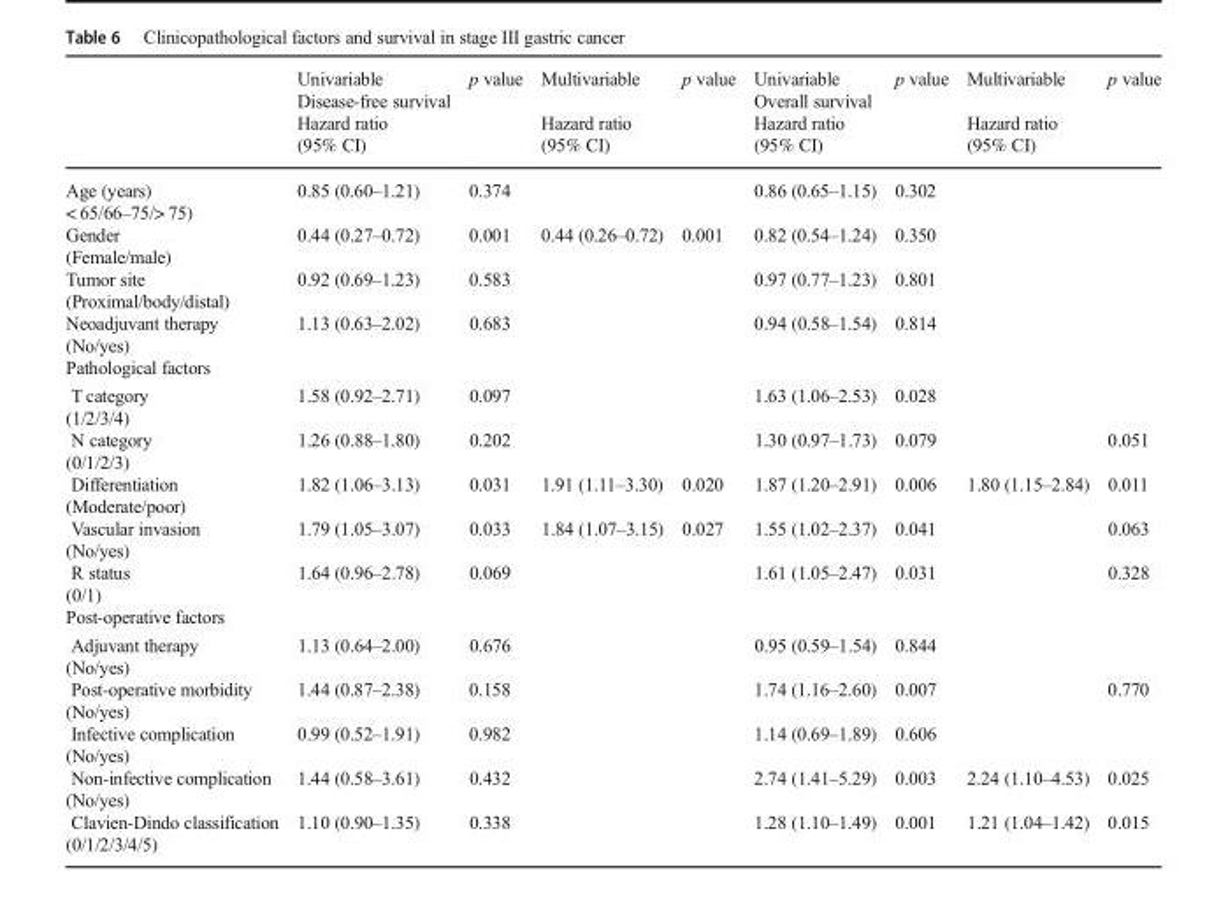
<table><thead><tr><td rowspan="3"></td><td rowspan="3">Univariable Disease-free survival Hazard ratio (95% CI)</td><td rowspan="3">p value</td><td rowspan="3">Multivariable Hazard ratio (95% CI)</td><td rowspan="3">p value</td><td rowspan="3">Univariable Overall survival Hazard ratio (95% CI)</td><td rowspan="3">p value</td><td rowspan="3">Multivariable Hazard ratio (95% CI)</td><td rowspan="3">p value</td></tr><tr></tr><tr></tr></thead><tbody><tr><td>Age (years) &lt; 65/66–75/&gt; 75)</td><td>0.85 (0.60–1.21)</td><td>0.374</td><td></td><td></td><td>0.86 (0.65–1.15)</td><td>0.302</td><td></td><td></td></tr><tr><td>Gender (Female/male)</td><td>0.44 (0.27–0.72)</td><td>0.001</td><td>0.44 (0.26–0.72)</td><td>0.001</td><td>0.82 (0.54–1.24)</td><td>0.350</td><td></td><td></td></tr><tr><td>Tumor site (Proximal/body/distal)</td><td>0.92 (0.69–1.23)</td><td>0.583</td><td></td><td></td><td>0.97 (0.77–1.23)</td><td>0.801</td><td></td><td></td></tr><tr><td>Neoadjuvant therapy (No/yes)</td><td>1.13 (0.63–2.02)</td><td>0.683</td><td></td><td></td><td>0.94 (0.58–1.54)</td><td>0.814</td><td></td><td></td></tr><tr><td colspan="9">Pathological factors</td></tr><tr><td>T category (1/2/3/4)</td><td>1.58 (0.92–2.71)</td><td>0.097</td><td></td><td></td><td>1.63 (1.06–2.53)</td><td>0.028</td><td></td><td></td></tr><tr><td>N category (0/1/2/3)</td><td>1.26 (0.88–1.80)</td><td>0.202</td><td></td><td></td><td>1.30 (0.97–1.73)</td><td>0.079</td><td></td><td>0.051</td></tr><tr><td>Differentiation (Moderate/poor)</td><td>1.82 (1.06–3.13)</td><td>0.031</td><td>1.91 (1.11–3.30)</td><td>0.020</td><td>1.87 (1.20–2.91)</td><td>0.006</td><td>1.80 (1.15–2.84)</td><td>0.011</td></tr><tr><td>Vascular invasion (No/yes)</td><td>1.79 (1.05–3.07)</td><td>0.033</td><td>1.84 (1.07–3.15)</td><td>0.027</td><td>1.55 (1.02–2.37)</td><td>0.041</td><td></td><td>0.063</td></tr><tr><td>R status (0/1)</td><td>1.64 (0.96–2.78)</td><td>0.069</td><td></td><td></td><td>1.61 (1.05–2.47)</td><td>0.031</td><td></td><td>0.328</td></tr><tr><td colspan="9">Post-operative factors</td></tr><tr><td>Adjuvant therapy (No/yes)</td><td>1.13 (0.64–2.00)</td><td>0.676</td><td></td><td></td><td>0.95 (0.59–1.54)</td><td>0.844</td><td></td><td></td></tr><tr><td>Post-operative morbidity (No/yes)</td><td>1.44 (0.87–2.38)</td><td>0.158</td><td></td><td></td><td>1.74 (1.16–2.60)</td><td>0.007</td><td></td><td>0.770</td></tr><tr><td>Infective complication (No/yes)</td><td>0.99 (0.52–1.91)</td><td>0.982</td><td></td><td></td><td>1.14 (0.69–1.89)</td><td>0.606</td><td></td><td></td></tr><tr><td>Non-infective complication (No/yes)</td><td>1.44 (0.58–3.61)</td><td>0.432</td><td></td><td></td><td>2.74 (1.41–5.29)</td><td>0.003</td><td>2.24 (1.10–4.53)</td><td>0.025</td></tr><tr><td>Clavien-Dindo classification (0/1/2/3/4/5)</td><td>1.10 (0.90–1.35)</td><td>0.338</td><td></td><td></td><td>1.28 (1.10–1.49)</td><td>0.001</td><td>1.21 (1.04–1.42)</td><td>0.015</td></tr></tbody></table>